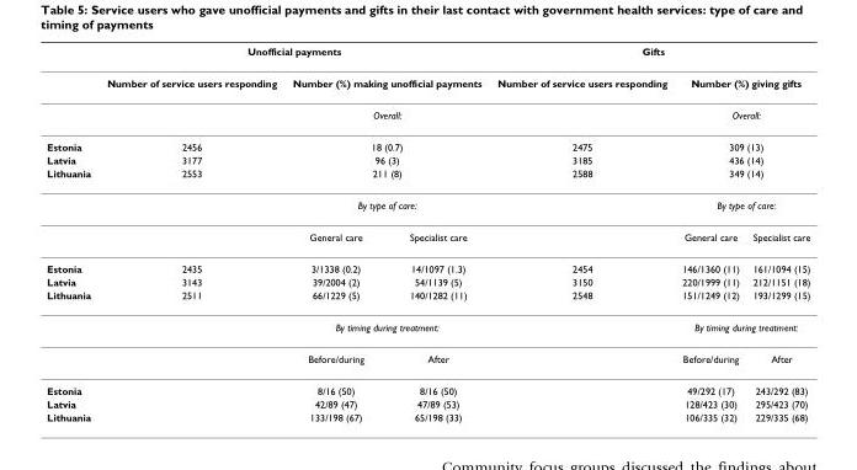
<table><thead><tr><td></td><td colspan="3">Unofficial payments</td><td colspan="3">Gifts</td></tr></thead><tbody><tr><td></td><td>Number of service users responding</td><td colspan="2">Number (%) making unofficial payments</td><td>Number of service users responding</td><td colspan="2">Number (%) giving gifts</td></tr><tr><td></td><td></td><td colspan="2">Overall:</td><td></td><td colspan="2">Overall:</td></tr><tr><td>Estonia</td><td>2456</td><td colspan="2">18 (0.7)</td><td>2475</td><td colspan="2">309 (13)</td></tr><tr><td>Latvia</td><td>3177</td><td colspan="2">96 (3)</td><td>3185</td><td colspan="2">436 (14)</td></tr><tr><td rowspan="3">Lithuania</td><td>2553</td><td colspan="2">211 (8)</td><td>2588</td><td colspan="2">349 (14)</td></tr><tr><td></td><td colspan="2">By type of care:</td><td></td><td colspan="2">By type of care:</td></tr><tr><td></td><td>General care</td><td>Specialist care</td><td></td><td>General care</td><td>Specialist care</td></tr><tr><td>Estonia</td><td>2435</td><td>3/1338 (0.2)</td><td>14/1097 (1.3)</td><td>2454</td><td>146/1360 (11)</td><td>161/1094 (15)</td></tr><tr><td>Latvia</td><td>3143</td><td>39/2004 (2)</td><td>54/1139 (5)</td><td>3150</td><td>220/1999 (11)</td><td>212/1151 (18)</td></tr><tr><td rowspan="3">Lithuania</td><td>2511</td><td>66/1229 (5)</td><td>140/1282 (11)</td><td>2548</td><td>151/1249 (12)</td><td>193/1299 (15)</td></tr><tr><td></td><td colspan="2">By timing during treatment:</td><td></td><td colspan="2">By timing during treatment:</td></tr><tr><td></td><td>Before/during</td><td>After</td><td></td><td>Before/during</td><td>After</td></tr><tr><td>Estonia</td><td></td><td>8/16 (50)</td><td>8/16 (50)</td><td></td><td>49/292 (17)</td><td>243/292 (83)</td></tr><tr><td>Latvia</td><td></td><td>42/89 (47)</td><td>47/89 (53)</td><td></td><td>128/423 (30)</td><td>295/423 (70)</td></tr><tr><td>Lithuania</td><td></td><td>133/198 (67)</td><td>65/198 (33)</td><td></td><td>106/335 (32)</td><td>229/335 (68)</td></tr></tbody></table>